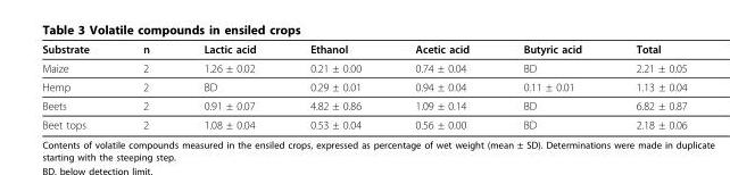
<table><thead><tr><td>Substrate</td><td>n</td><td>Lactic acid</td><td>Ethanol</td><td>Acetic acid</td><td>Butyric acid</td><td>Total</td></tr></thead><tbody><tr><td>Maize</td><td>2</td><td>1.26 ± 0.02</td><td>0.21 ± 0.00</td><td>0.74 ± 0.04</td><td>BD</td><td>2.21 ± 0.05</td></tr><tr><td>Hemp</td><td>2</td><td>BD</td><td>0.29 ± 0.01</td><td>0.94 ± 0.04</td><td>0.11 ± 0.01</td><td>1.13 ± 0.04</td></tr><tr><td>Beets</td><td>2</td><td>0.91 ± 0.07</td><td>4.82 ± 0.86</td><td>1.09 ± 0.14</td><td>BD</td><td>6.82 ± 0.87</td></tr><tr><td>Beet tops</td><td>2</td><td>1.08 ± 0.04</td><td>0.53 ± 0.04</td><td>0.56 ± 0.00</td><td>BD</td><td>2.18 ± 0.06</td></tr></tbody></table>